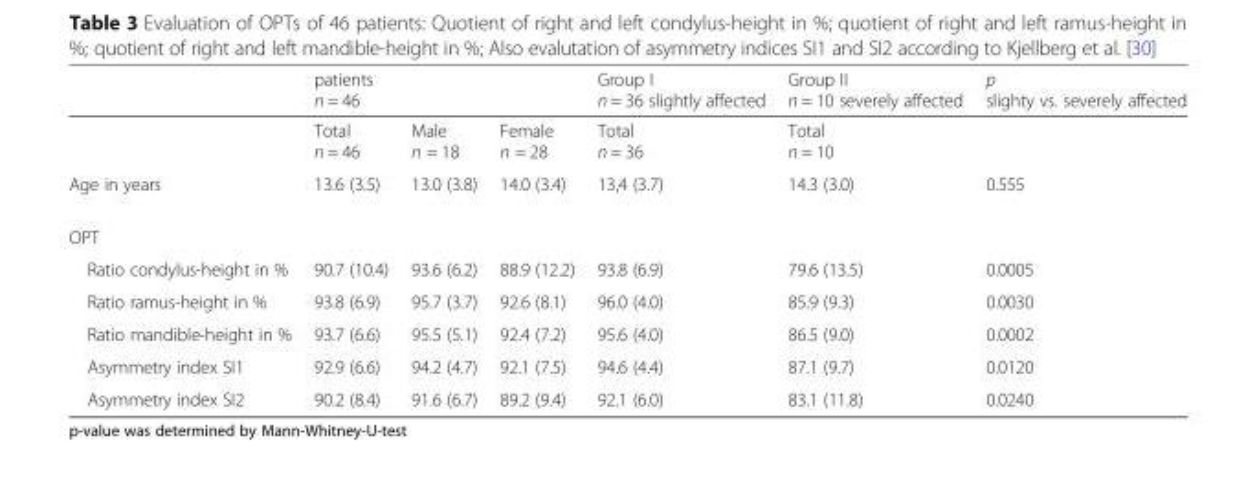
<table><thead><tr><td rowspan="2"></td><td colspan="3">patients n = 46</td><td rowspan="2">Group I n = 36 slightly affected Total n = 36</td><td rowspan="2">Group II n = 10 severely affected Total n = 10</td><td rowspan="2">p slighty vs. severely affected</td></tr><tr><td>Total n = 46</td><td>Male n = 18</td><td>Female n = 28</td></tr></thead><tbody><tr><td>Age in years</td><td>13.6 (3.5)</td><td>13.0 (3.8)</td><td>14.0 (3.4)</td><td>13,4 (3.7)</td><td>14.3 (3.0)</td><td>0.555</td></tr><tr><td colspan="7">OPT</td></tr><tr><td>Ratio condylus-height in %</td><td>90.7 (10.4)</td><td>93.6 (6.2)</td><td>88.9 (12.2)</td><td>93.8 (6.9)</td><td>79.6 (13.5)</td><td>0.0005</td></tr><tr><td>Ratio ramus-height in %</td><td>93.8 (6.9)</td><td>95.7 (3.7)</td><td>92.6 (8.1)</td><td>96.0 (4.0)</td><td>85.9 (9.3)</td><td>0.0030</td></tr><tr><td>Ratio mandible-height in %</td><td>93.7 (6.6)</td><td>95.5 (5.1)</td><td>92.4 (7.2)</td><td>95.6 (4.0)</td><td>86.5 (9.0)</td><td>0.0002</td></tr><tr><td>Asymmetry index SI1</td><td>92.9 (6.6)</td><td>94.2 (4.7)</td><td>92.1 (7.5)</td><td>94.6 (4.4)</td><td>87.1 (9.7)</td><td>0.0120</td></tr><tr><td>Asymmetry index SI2</td><td>90.2 (8.4)</td><td>91.6 (6.7)</td><td>89.2 (9.4)</td><td>92.1 (6.0)</td><td>83.1 (11.8)</td><td>0.0240</td></tr></tbody></table>